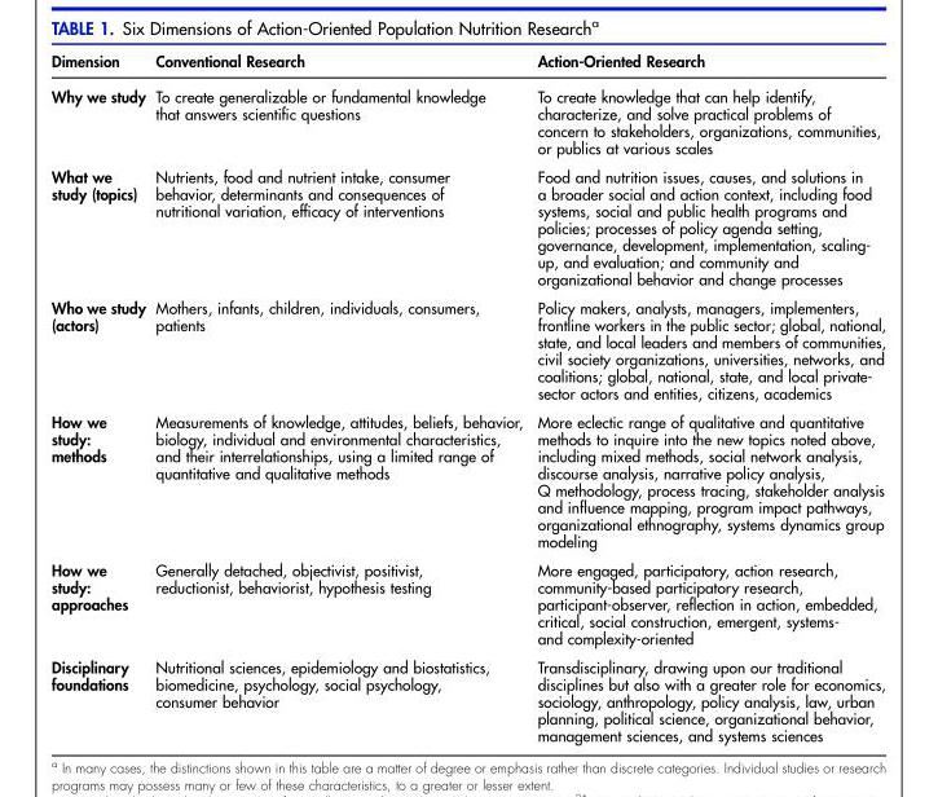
<table><thead><tr><td>Dimension</td><td>Conventional Research</td><td>Action-Oriented Research</td></tr></thead><tbody><tr><td>Why we study</td><td>To create generalizable or fundamental knowledge that answers scientific questions</td><td>To create knowledge that can help identify, characterize, and solve practical problems of concern to stakeholders, organizations, communities, or publics at various scales</td></tr><tr><td>What we study (topics)</td><td>Nutrients, food and nutrient intake, consumer behavior, determinants and consequences of nutritional variation, efficacy of interventions</td><td>Food and nutrition issues, causes, and solutions in a broader social and action context, including food systems, social and public health programs and policies; processes of policy agenda setting, governance, development, implementation, scaling- up, and evaluation; and community and organizational behavior and change processes</td></tr><tr><td>Who we study (actors)</td><td>Mothers, infants, children, individuals, consumers, patients</td><td>Policy makers, analysts, managers, implementers, frontline workers in the public sector; global, national, state, and local leaders and members of communities, civil society organizations, universities, networks, and coalitions; global, national, state, and local private- sector actors and entities, citizens, academics</td></tr><tr><td>How we study: methods</td><td>Measurements of knowledge, attitudes, beliefs, behavior, biology, individual and environmental characteristics, and their interrelationships, using a limited range of quantitative and qualitative methods</td><td>More eclectic range of qualitative and quantitative methods to inquire into the new topics noted above, including mixed methods, social network analysis, discourse analysis, narrative policy analysis, Q methodology, process tracing, stakeholder analysis and influence mapping, program impact pathways, organizational ethnography, systems dynamics group modeling</td></tr><tr><td>How we study: approaches</td><td>Generally detached, objectivist, positivist, reductionist, behaviorist, hypothesis testing</td><td>More engaged, participatory, action research, community-based participatory research, participant-observer, reflection in action, embedded, critical, social construction, emergent, systems- and complexity-oriented</td></tr><tr><td>Disciplinary foundations</td><td>Nutritional sciences, epidemiology and biostatistics, biomedicine, psychology, social psychology, consumer behavior</td><td>Transdisciplinary, drawing upon our traditional disciplines but also with a greater role for economics, sociology, anthropology, policy analysis, law, urban planning, political science, organizational behavior, management sciences, and systems sciences</td></tr></tbody></table>